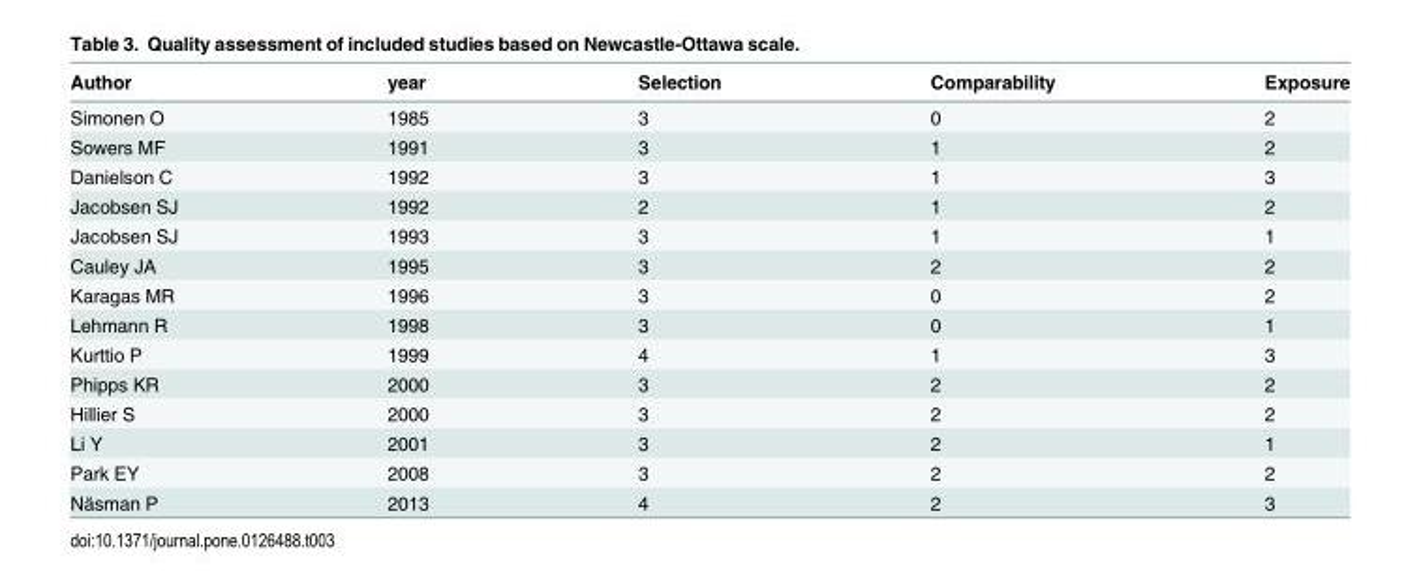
<table><thead><tr><td>Author</td><td>year</td><td>Selection</td><td>Comparability</td><td>Exposure</td></tr></thead><tbody><tr><td>Simonen O</td><td>1985</td><td>3</td><td>0</td><td>2</td></tr><tr><td>Sowers MF</td><td>1991</td><td>3</td><td>1</td><td>2</td></tr><tr><td>Danielson C</td><td>1992</td><td>3</td><td>1</td><td>3</td></tr><tr><td>Jacobsen SJ</td><td>1992</td><td>2</td><td>1</td><td>2</td></tr><tr><td>Jacobsen SJ</td><td>1993</td><td>3</td><td>1</td><td>1</td></tr><tr><td>Cauley JA</td><td>1995</td><td>3</td><td>2</td><td>2</td></tr><tr><td>Karagas MR</td><td>1996</td><td>3</td><td>0</td><td>2</td></tr><tr><td>Lehmann R</td><td>1998</td><td>3</td><td>0</td><td>1</td></tr><tr><td>Kurttio P</td><td>1999</td><td>4</td><td>1</td><td>3</td></tr><tr><td>Phipps KR</td><td>2000</td><td>3</td><td>2</td><td>2</td></tr><tr><td>Hillier S</td><td>2000</td><td>3</td><td>2</td><td>2</td></tr><tr><td>Li Y</td><td>2001</td><td>3</td><td>2</td><td>1</td></tr><tr><td>Park EY</td><td>2008</td><td>3</td><td>2</td><td>2</td></tr><tr><td>Näsman P</td><td>2013</td><td>4</td><td>2</td><td>3</td></tr></tbody></table>